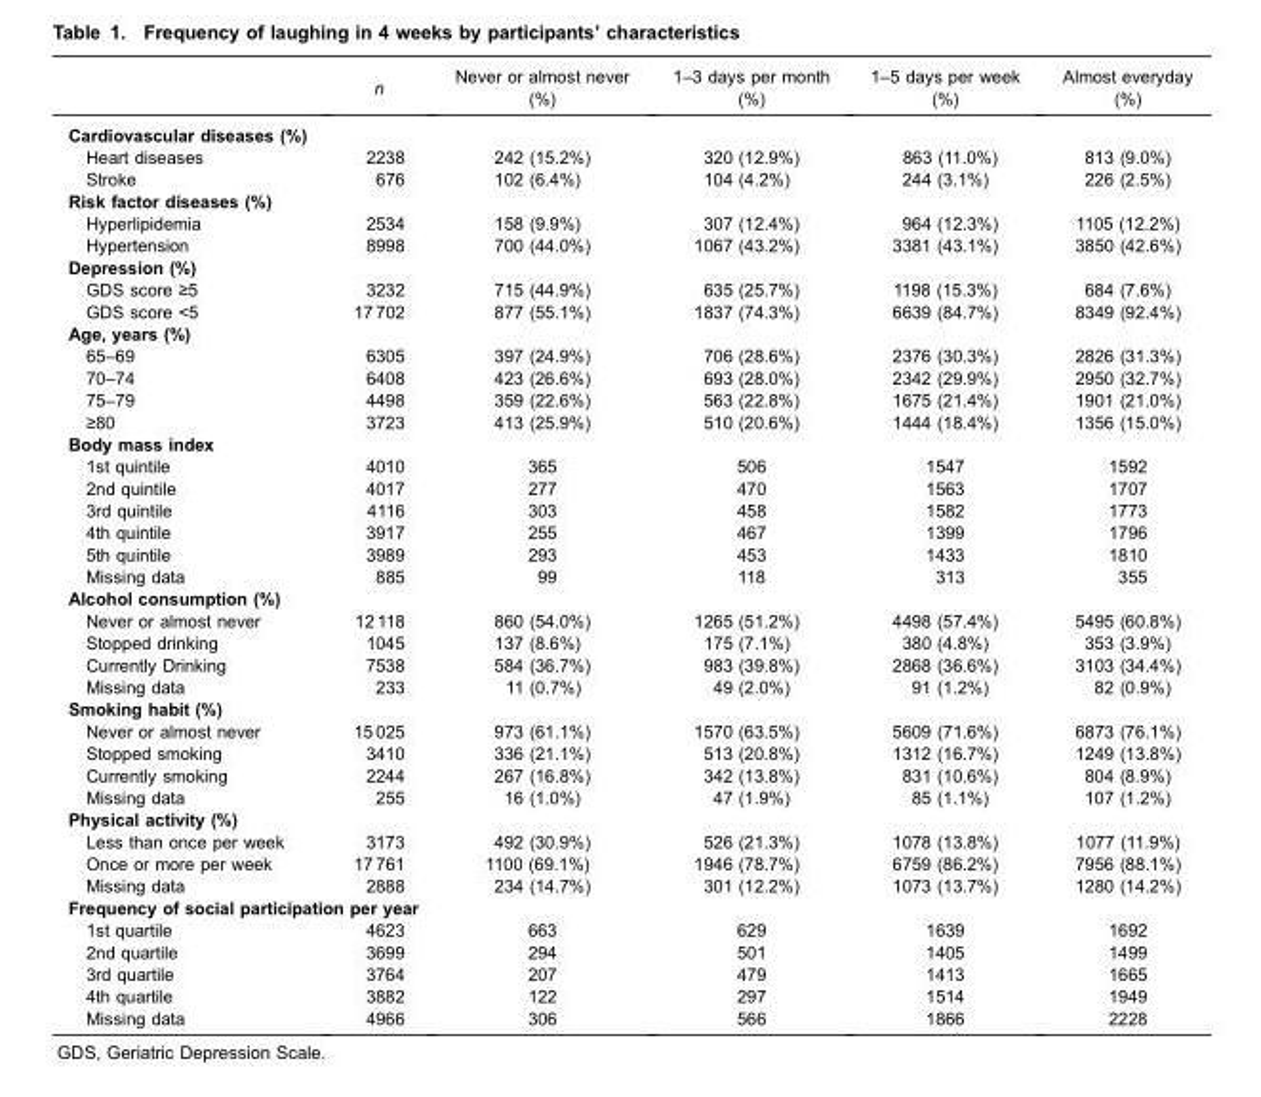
<table><thead><tr><td></td><td>n</td><td>Never or almost never (%)</td><td>1–3 days per month (%)</td><td>1–5 days per week (%)</td><td>Almost everyday (%)</td></tr></thead><tbody><tr><td colspan="6">Cardiovascular diseases (%)</td></tr><tr><td>Heart diseases</td><td>2238</td><td>242 (15.2%)</td><td>320 (12.9%)</td><td>863 (11.0%)</td><td>813 (9.0%)</td></tr><tr><td>Stroke</td><td>676</td><td>102 (6.4%)</td><td>104 (4.2%)</td><td>244 (3.1%)</td><td>226 (2.5%)</td></tr><tr><td colspan="6">Risk factor diseases (%)</td></tr><tr><td>Hyperlipidemia</td><td>2534</td><td>158 (9.9%)</td><td>307 (12.4%)</td><td>964 (12.3%)</td><td>1105 (12.2%)</td></tr><tr><td>Hypertension</td><td>8998</td><td>700 (44.0%)</td><td>1067 (43.2%)</td><td>3381 (43.1%)</td><td>3850 (42.6%)</td></tr><tr><td colspan="6">Depression (%)</td></tr><tr><td>GDS score ≥5</td><td>3232</td><td>715 (44.9%)</td><td>635 (25.7%)</td><td>1198 (15.3%)</td><td>684 (7.6%)</td></tr><tr><td>GDS score &lt;5</td><td>17 702</td><td>877 (55.1%)</td><td>1837 (74.3%)</td><td>6639 (84.7%)</td><td>8349 (92.4%)</td></tr><tr><td colspan="6">Age, years (%)</td></tr><tr><td>65–69</td><td>6305</td><td>397 (24.9%)</td><td>706 (28.6%)</td><td>2376 (30.3%)</td><td>2826 (31.3%)</td></tr><tr><td>70–74</td><td>6408</td><td>423 (26.6%)</td><td>693 (28.0%)</td><td>2342 (29.9%)</td><td>2950 (32.7%)</td></tr><tr><td>75–79</td><td>4498</td><td>359 (22.6%)</td><td>563 (22.8%)</td><td>1675 (21.4%)</td><td>1901 (21.0%)</td></tr><tr><td>≥80</td><td>3723</td><td>413 (25.9%)</td><td>510 (20.6%)</td><td>1444 (18.4%)</td><td>1356 (15.0%)</td></tr><tr><td colspan="6">Body mass index</td></tr><tr><td>1st quintile</td><td>4010</td><td>365</td><td>506</td><td>1547</td><td>1592</td></tr><tr><td>2nd quintile</td><td>4017</td><td>277</td><td>470</td><td>1563</td><td>1707</td></tr><tr><td>3rd quintile</td><td>4116</td><td>303</td><td>458</td><td>1582</td><td>1773</td></tr><tr><td>4th quintile</td><td>3917</td><td>255</td><td>467</td><td>1399</td><td>1796</td></tr><tr><td>5th quintile</td><td>3989</td><td>293</td><td>453</td><td>1433</td><td>1810</td></tr><tr><td>Missing data</td><td>885</td><td>99</td><td>118</td><td>313</td><td>355</td></tr><tr><td colspan="6">Alcohol consumption (%)</td></tr><tr><td>Never or almost never</td><td>12 118</td><td>860 (54.0%)</td><td>1265 (51.2%)</td><td>4498 (57.4%)</td><td>5495 (60.8%)</td></tr><tr><td>Stopped drinking</td><td>1045</td><td>137 (8.6%)</td><td>175 (7.1%)</td><td>380 (4.8%)</td><td>353 (3.9%)</td></tr><tr><td>Currently Drinking</td><td>7538</td><td>584 (36.7%)</td><td>983 (39.8%)</td><td>2868 (36.6%)</td><td>3103 (34.4%)</td></tr><tr><td>Missing data</td><td>233</td><td>11 (0.7%)</td><td>49 (2.0%)</td><td>91 (1.2%)</td><td>82 (0.9%)</td></tr><tr><td colspan="6">Smoking habit (%)</td></tr><tr><td>Never or almost never</td><td>15 025</td><td>973 (61.1%)</td><td>1570 (63.5%)</td><td>5609 (71.6%)</td><td>6873 (76.1%)</td></tr><tr><td>Stopped smoking</td><td>3410</td><td>336 (21.1%)</td><td>513 (20.8%)</td><td>1312 (16.7%)</td><td>1249 (13.8%)</td></tr><tr><td>Currently smoking</td><td>2244</td><td>267 (16.8%)</td><td>342 (13.8%)</td><td>831 (10.6%)</td><td>804 (8.9%)</td></tr><tr><td>Missing data</td><td>255</td><td>16 (1.0%)</td><td>47 (1.9%)</td><td>85 (1.1%)</td><td>107 (1.2%)</td></tr><tr><td colspan="6">Physical activity (%)</td></tr><tr><td>Less than once per week</td><td>3173</td><td>492 (30.9%)</td><td>526 (21.3%)</td><td>1078 (13.8%)</td><td>1077 (11.9%)</td></tr><tr><td>Once or more per week</td><td>17 761</td><td>1100 (69.1%)</td><td>1946 (78.7%)</td><td>6759 (86.2%)</td><td>7956 (88.1%)</td></tr><tr><td>Missing data</td><td>2888</td><td>234 (14.7%)</td><td>301 (12.2%)</td><td>1073 (13.7%)</td><td>1280 (14.2%)</td></tr><tr><td colspan="6">Frequency of social participation per year</td></tr><tr><td>1st quartile</td><td>4623</td><td>663</td><td>629</td><td>1639</td><td>1692</td></tr><tr><td>2nd quartile</td><td>3699</td><td>294</td><td>501</td><td>1405</td><td>1499</td></tr><tr><td>3rd quartile</td><td>3764</td><td>207</td><td>479</td><td>1413</td><td>1665</td></tr><tr><td>4th quartile</td><td>3882</td><td>122</td><td>297</td><td>1514</td><td>1949</td></tr><tr><td>Missing data</td><td>4966</td><td>306</td><td>566</td><td>1866</td><td>2228</td></tr></tbody></table>